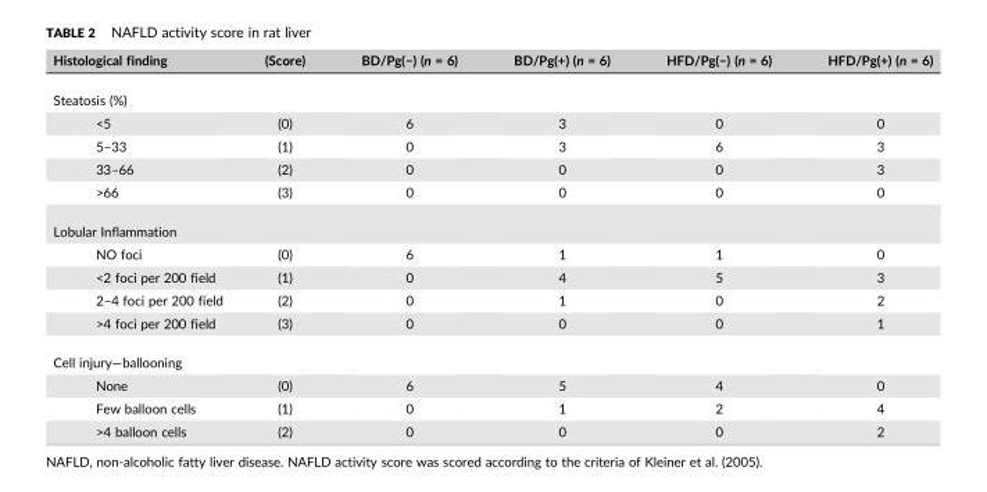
<table><thead><tr><td>Histological finding</td><td>(Score)</td><td>BD/Pg(−) (n = 6)</td><td>BD/Pg(+) (n = 6)</td><td>HFD/Pg(−) (n = 6)</td><td>HFD/Pg(+) (n = 6)</td></tr></thead><tbody><tr><td colspan="6">Steatosis (%)</td></tr><tr><td>&lt;5</td><td>(0)</td><td>6</td><td>3</td><td>0</td><td>0</td></tr><tr><td>5–33</td><td>(1)</td><td>0</td><td>3</td><td>6</td><td>3</td></tr><tr><td>33–66</td><td>(2)</td><td>0</td><td>0</td><td>0</td><td>3</td></tr><tr><td>&gt;66</td><td>(3)</td><td>0</td><td>0</td><td>0</td><td>0</td></tr><tr><td colspan="6">Lobular Inflammation</td></tr><tr><td>NO foci</td><td>(0)</td><td>6</td><td>1</td><td>1</td><td>0</td></tr><tr><td>&lt;2 foci per 200 field</td><td>(1)</td><td>0</td><td>4</td><td>5</td><td>3</td></tr><tr><td>2–4 foci per 200 field</td><td>(2)</td><td>0</td><td>1</td><td>0</td><td>2</td></tr><tr><td>&gt;4 foci per 200 field</td><td>(3)</td><td>0</td><td>0</td><td>0</td><td>1</td></tr><tr><td colspan="6">Cell injury—ballooning</td></tr><tr><td>None</td><td>(0)</td><td>6</td><td>5</td><td>4</td><td>0</td></tr><tr><td>Few balloon cells</td><td>(1)</td><td>0</td><td>1</td><td>2</td><td>4</td></tr><tr><td>&gt;4 balloon cells</td><td>(2)</td><td>0</td><td>0</td><td>0</td><td>2</td></tr></tbody></table>